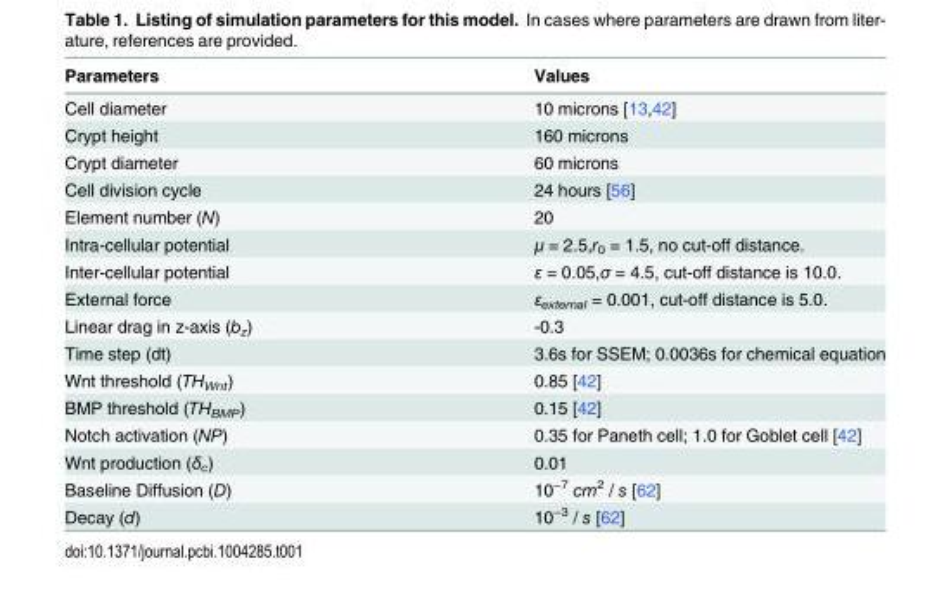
<table><thead><tr><td>Parameters</td><td>Values</td></tr></thead><tbody><tr><td>Cell diameter</td><td>10 microns [13,42]</td></tr><tr><td>Crypt height</td><td>160 microns</td></tr><tr><td>Crypt diameter</td><td>60 microns</td></tr><tr><td>Cell division cycle</td><td>24 hours [56]</td></tr><tr><td>Element number (N)</td><td>20</td></tr><tr><td>Intra-cellular potential</td><td>μ = 2.5,r<sub>0</sub> = 1.5, no cut-off distance.</td></tr><tr><td>Inter-cellular potential</td><td>ε = 0.05,σ = 4.5, cut-off distance is 10.0.</td></tr><tr><td>External force</td><td>ε<sub>external</sub> = 0.001, cut-off distance is 5.0.</td></tr><tr><td>Linear drag in z-axis (b<sub>z</sub>)</td><td>-0.3</td></tr><tr><td>Time step (dt)</td><td>3.6s for SSEM; 0.0036s for chemical equation</td></tr><tr><td>Wnt threshold (TH<sub>Wnt</sub>)</td><td>0.85 [42]</td></tr><tr><td>BMP threshold (TH<sub>BMP</sub>)</td><td>0.15 [42]</td></tr><tr><td>Notch activation (NP)</td><td>0.35 for Paneth cell; 1.0 for Goblet cell [42]</td></tr><tr><td>Wnt production (δ<sub>c</sub>)</td><td>0.01</td></tr><tr><td>Baseline Diffusion (D)</td><td>10<sup>−7</sup> cm<sup>2</sup> / s [62]</td></tr><tr><td>Decay (d)</td><td>10<sup>−3</sup> / s [62]</td></tr></tbody></table>